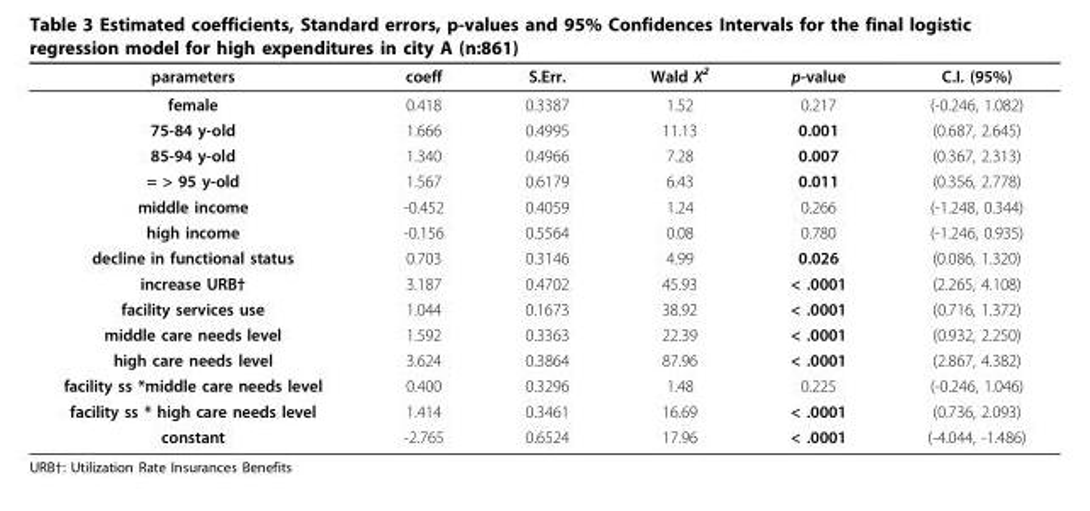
<table><thead><tr><td>parameters</td><td>coeff</td><td>S.Err.</td><td>Wald X<sup>2</sup></td><td>p-value</td><td>C.I. (95%)</td></tr></thead><tbody><tr><td>female</td><td>0.418</td><td>0.3387</td><td>1.52</td><td>0.217</td><td>(-0.246, 1.082)</td></tr><tr><td>75-84 y-old</td><td>1.666</td><td>0.4995</td><td>11.13</td><td>0.001</td><td>(0.687, 2.645)</td></tr><tr><td>85-94 y-old</td><td>1.340</td><td>0.4966</td><td>7.28</td><td>0.007</td><td>(0.367, 2.313)</td></tr><tr><td>= &gt; 95 y-old</td><td>1.567</td><td>0.6179</td><td>6.43</td><td>0.011</td><td>(0.356, 2.778)</td></tr><tr><td>middle income</td><td>-0.452</td><td>0.4059</td><td>1.24</td><td>0.266</td><td>(-1.248, 0.344)</td></tr><tr><td>high income</td><td>-0.156</td><td>0.5564</td><td>0.08</td><td>0.780</td><td>(-1.246, 0.935)</td></tr><tr><td>decline in functional status</td><td>0.703</td><td>0.3146</td><td>4.99</td><td>0.026</td><td>(0.086, 1.320)</td></tr><tr><td>increase URB†</td><td>3.187</td><td>0.4702</td><td>45.93</td><td>&lt; .0001</td><td>(2.265, 4.108)</td></tr><tr><td>facility services use</td><td>1.044</td><td>0.1673</td><td>38.92</td><td>&lt; .0001</td><td>(0.716, 1.372)</td></tr><tr><td>middle care needs level</td><td>1.592</td><td>0.3363</td><td>22.39</td><td>&lt; .0001</td><td>(0.932, 2.250)</td></tr><tr><td>high care needs level</td><td>3.624</td><td>0.3864</td><td>87.96</td><td>&lt; .0001</td><td>(2.867, 4.382)</td></tr><tr><td>facility ss *middle care needs level</td><td>0.400</td><td>0.3296</td><td>1.48</td><td>0.225</td><td>(-0.246, 1.046)</td></tr><tr><td>facility ss * high care needs level</td><td>1.414</td><td>0.3461</td><td>16.69</td><td>&lt; .0001</td><td>(0.736, 2.093)</td></tr><tr><td>constant</td><td>-2.765</td><td>0.6524</td><td>17.96</td><td>&lt; .0001</td><td>(-4.044, -1.486)</td></tr></tbody></table>